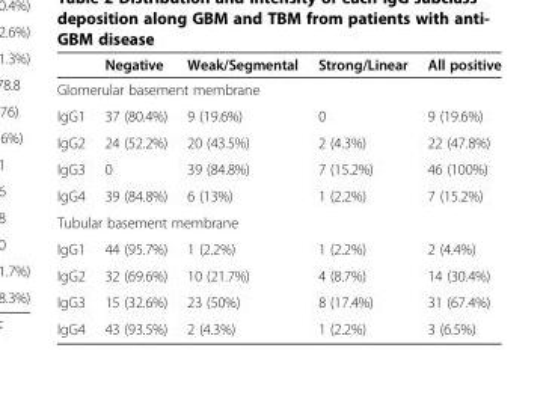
<table><thead><tr><td></td><td>Negative</td><td>Weak/Segmental</td><td>Strong/Linear</td><td>All positive</td></tr></thead><tbody><tr><td colspan="5">Glomerular basement membrane</td></tr><tr><td>IgG1</td><td>37 (80.4%)</td><td>9 (19.6%)</td><td>0</td><td>9 (19.6%)</td></tr><tr><td>IgG2</td><td>24 (52.2%)</td><td>20 (43.5%)</td><td>2 (4.3%)</td><td>22 (47.8%)</td></tr><tr><td>IgG3</td><td>0</td><td>39 (84.8%)</td><td>7 (15.2%)</td><td>46 (100%)</td></tr><tr><td>IgG4</td><td>39 (84.8%)</td><td>6 (13%)</td><td>1 (2.2%)</td><td>7 (15.2%)</td></tr><tr><td colspan="5">Tubular basement membrane</td></tr><tr><td>IgG1</td><td>44 (95.7%)</td><td>1 (2.2%)</td><td>1 (2.2%)</td><td>2 (4.4%)</td></tr><tr><td>IgG2</td><td>32 (69.6%)</td><td>10 (21.7%)</td><td>4 (8.7%)</td><td>14 (30.4%)</td></tr><tr><td>IgG3</td><td>15 (32.6%)</td><td>23 (50%)</td><td>8 (17.4%)</td><td>31 (67.4%)</td></tr><tr><td>IgG4</td><td>43 (93.5%)</td><td>2 (4.3%)</td><td>1 (2.2%)</td><td>3 (6.5%)</td></tr></tbody></table>